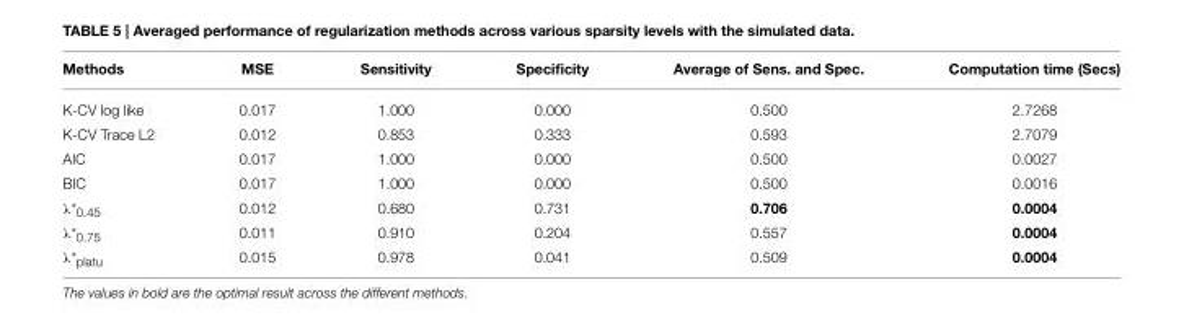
<table><thead><tr><td>Methods</td><td>MSE</td><td>Sensitivity</td><td>Specificity</td><td>Average of Sens. and Spec.</td><td>Computation time (Secs)</td></tr></thead><tbody><tr><td>K-CV log like</td><td>0.017</td><td>1.000</td><td>0.000</td><td>0.500</td><td>2.7268</td></tr><tr><td>K-CV Trace L2</td><td>0.012</td><td>0.853</td><td>0.333</td><td>0.593</td><td>2.7079</td></tr><tr><td>AIC</td><td>0.017</td><td>1.000</td><td>0.000</td><td>0.500</td><td>0.0027</td></tr><tr><td>BIC</td><td>0.017</td><td>1.000</td><td>0.000</td><td>0.500</td><td>0.0016</td></tr><tr><td>λ*<sub>0.45</sub></td><td>0.012</td><td>0.680</td><td>0.731</td><td>0.706</td><td>0.0004</td></tr><tr><td>λ*<sub>0.75</sub></td><td>0.011</td><td>0.910</td><td>0.204</td><td>0.557</td><td>0.0004</td></tr><tr><td>λ*<sub>platu</sub></td><td>0.015</td><td>0.978</td><td>0.041</td><td>0.509</td><td>0.0004</td></tr></tbody></table>